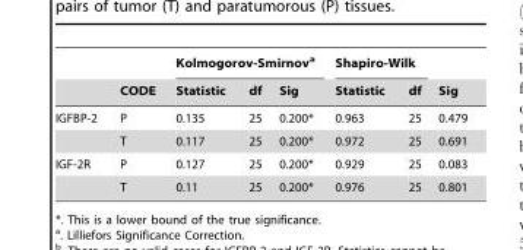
<table><thead><tr><td rowspan="2"></td><td rowspan="2">CODE</td><td colspan="3">Kolmogorov-Smirnov<sup>a</sup></td><td colspan="2">Shapiro-Wilk</td><td rowspan="2">Sig</td></tr><tr><td>Statistic</td><td>df</td><td>Sig</td><td>Statistic</td><td>df</td></tr></thead><tbody><tr><td rowspan="2">IGFBP-2</td><td>P</td><td>0.135</td><td>25</td><td>0.200*</td><td>0.963</td><td>25</td><td>0.479</td></tr><tr><td>T</td><td>0.117</td><td>25</td><td>0.200*</td><td>0.972</td><td>25</td><td>0.691</td></tr><tr><td rowspan="2">IGF-2R</td><td>P</td><td>0.127</td><td>25</td><td>0.200*</td><td>0.929</td><td>25</td><td>0.083</td></tr><tr><td>T</td><td>0.11</td><td>25</td><td>0.200*</td><td>0.976</td><td>25</td><td>0.801</td></tr></tbody></table>